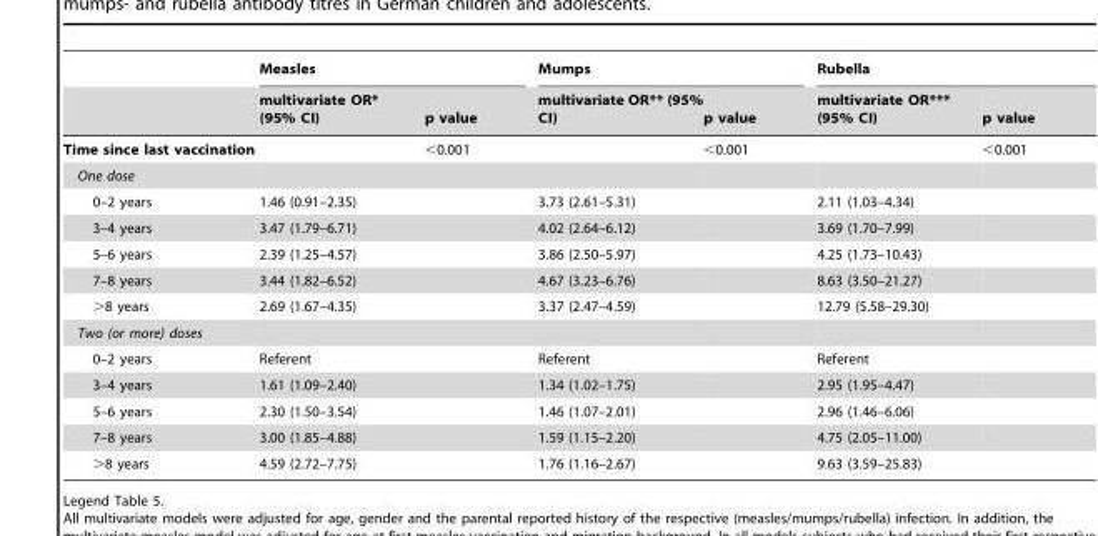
<table><thead><tr><td rowspan="2"></td><td colspan="2">Measles</td><td colspan="2">Mumps</td><td colspan="2">Rubella</td></tr><tr><td>multivariate OR* (95% CI)</td><td>p value</td><td>multivariate OR** (95% CI)</td><td>p value</td><td>multivariate OR*** (95% CI)</td><td>p value</td></tr></thead><tbody><tr><td>Time since last vaccination</td><td></td><td>&lt;0.001</td><td></td><td>&lt;0.001</td><td></td><td>&lt;0.001</td></tr><tr><td colspan="7">One dose</td></tr><tr><td>0–2 years</td><td>1.46 (0.91–2.35)</td><td></td><td>3.73 (2.61–5.31)</td><td></td><td>2.11 (1.03–4.34)</td><td></td></tr><tr><td>3–4 years</td><td>3.47 (1.79–6.71)</td><td></td><td>4.02 (2.64–6.12)</td><td></td><td>3.69 (1.70–7.99)</td><td></td></tr><tr><td>5–6 years</td><td>2.39 (1.25–4.57)</td><td></td><td>3.86 (2.50–5.97)</td><td></td><td>4.25 (1.73–10.43)</td><td></td></tr><tr><td>7–8 years</td><td>3.44 (1.82–6.52)</td><td></td><td>4.67 (3.23–6.76)</td><td></td><td>8.63 (3.50–21.27)</td><td></td></tr><tr><td>&gt;8 years</td><td>2.69 (1.67–4.35)</td><td></td><td>3.37 (2.47–4.59)</td><td></td><td>12.79 (5.58–29.30)</td><td></td></tr><tr><td colspan="7">Two (or more) doses</td></tr><tr><td>0–2 years</td><td>Referent</td><td></td><td>Referent</td><td></td><td>Referent</td><td></td></tr><tr><td>3–4 years</td><td>1.61 (1.09–2.40)</td><td></td><td>1.34 (1.02–1.75)</td><td></td><td>2.95 (1.95–4.47)</td><td></td></tr><tr><td>5–6 years</td><td>2.30 (1.50–3.54)</td><td></td><td>1.46 (1.07–2.01)</td><td></td><td>2.96 (1.46–6.06)</td><td></td></tr><tr><td>7–8 years</td><td>3.00 (1.85–4.88)</td><td></td><td>1.59 (1.15–2.20)</td><td></td><td>4.75 (2.05–11.00)</td><td></td></tr><tr><td>&gt;8 years</td><td>4.59 (2.72–7.75)</td><td></td><td>1.76 (1.16–2.67)</td><td></td><td>9.63 (3.59–25.83)</td><td></td></tr></tbody></table>